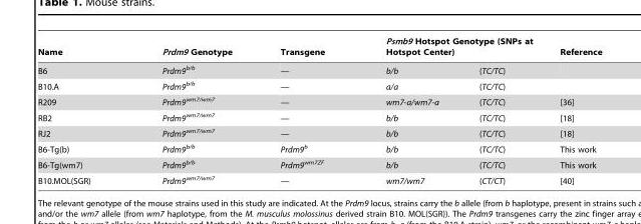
<table><thead><tr><td rowspan="2">Name B6</td><td rowspan="2">Prdm9 Genotype Prdm9<sup>b/b</sup></td><td rowspan="2">Transgene —</td><td colspan="2">Psmb9 Hotspot Genotype (SNPs at Hotspot Center)</td><td rowspan="2">Reference</td></tr><tr><td>b/b</td><td>(TC/TC)</td></tr></thead><tbody><tr><td>B10.A</td><td>Prdm9<sup>b/b</sup></td><td>—</td><td>a/a</td><td>(TC/TC)</td><td></td></tr><tr><td>R209</td><td>Prdm9<sup>wm7/wm7</sup></td><td>—</td><td>wm7-a/wm7-a</td><td>(TC/TC)</td><td>[36]</td></tr><tr><td>RB2</td><td>Prdm9<sup>wm7/wm7</sup></td><td>—</td><td>b/b</td><td>(TC/TC)</td><td>[18]</td></tr><tr><td>RJ2</td><td>Prdm9<sup>wm7/wm7</sup></td><td>—</td><td>b/b</td><td>(TC/TC)</td><td>[18]</td></tr><tr><td>B6-Tg(b)</td><td>Prdm9<sup>b/b</sup></td><td>Prdm9<sup>b</sup></td><td>b/b</td><td>(TC/TC)</td><td>This work</td></tr><tr><td>B6-Tg(wm7)</td><td>Prdm9<sup>b/b</sup></td><td>Prdm9<sup>wm7ZF</sup></td><td>b/b</td><td>(TC/TC)</td><td>This work</td></tr><tr><td>B10.MOL(SGR)</td><td>Prdm9<sup>wm7/wm7</sup></td><td>—</td><td>wm7/wm7</td><td>(CT/CT)</td><td>[40]</td></tr></tbody></table>